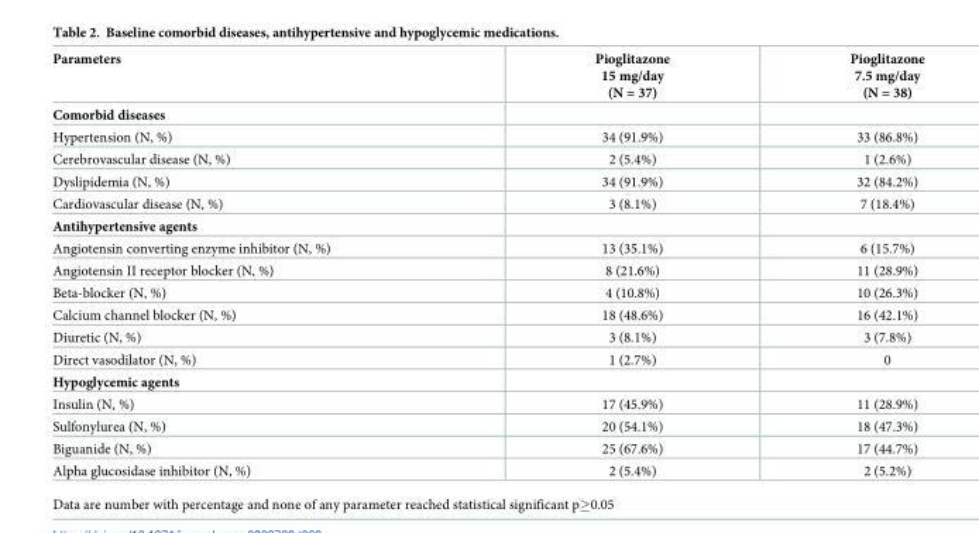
<table><thead><tr><td>Parameters</td><td>Pioglitazone 15 mg/day (N = 37)</td><td>Pioglitazone 7.5 mg/day (N = 38)</td></tr></thead><tbody><tr><td colspan="3">Comorbid diseases</td></tr><tr><td>Hypertension (N, %)</td><td>34 (91.9%)</td><td>33 (86.8%)</td></tr><tr><td>Cerebrovascular disease (N, %)</td><td>2 (5.4%)</td><td>1 (2.6%)</td></tr><tr><td>Dyslipidemia (N, %)</td><td>34 (91.9%)</td><td>32 (84.2%)</td></tr><tr><td>Cardiovascular disease (N, %)</td><td>3 (8.1%)</td><td>7 (18.4%)</td></tr><tr><td colspan="3">Antihypertensive agents</td></tr><tr><td>Angiotensin converting enzyme inhibitor (N, %)</td><td>13 (35.1%)</td><td>6 (15.7%)</td></tr><tr><td>Angiotensin II receptor blocker (N, %)</td><td>8 (21.6%)</td><td>11 (28.9%)</td></tr><tr><td>Beta-blocker (N, %)</td><td>4 (10.8%)</td><td>10 (26.3%)</td></tr><tr><td>Calcium channel blocker (N, %)</td><td>18 (48.6%)</td><td>16 (42.1%)</td></tr><tr><td>Diuretic (N, %)</td><td>3 (8.1%)</td><td>3 (7.8%)</td></tr><tr><td>Direct vasodilator (N, %)</td><td>1 (2.7%)</td><td>0</td></tr><tr><td colspan="3">Hypoglycemic agents</td></tr><tr><td>Insulin (N, %)</td><td>17 (45.9%)</td><td>11 (28.9%)</td></tr><tr><td>Sulfonylurea (N, %)</td><td>20 (54.1%)</td><td>18 (47.3%)</td></tr><tr><td>Biguanide (N, %)</td><td>25 (67.6%)</td><td>17 (44.7%)</td></tr><tr><td>Alpha glucosidase inhibitor (N, %)</td><td>2 (5.4%)</td><td>2 (5.2%)</td></tr></tbody></table>